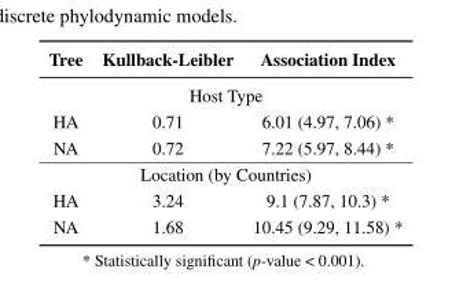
<table><thead><tr><td>Tree</td><td>Kullback-Leibler</td><td>Association Index</td></tr></thead><tbody><tr><td colspan="3">Host Type</td></tr><tr><td>HA</td><td>0.71</td><td>6.01 (4.97, 7.06) *</td></tr><tr><td>NA</td><td>0.72</td><td>7.22 (5.97, 8.44) *</td></tr><tr><td colspan="3">Location (by Countries)</td></tr><tr><td>HA</td><td>3.24</td><td>9.1 (7.87, 10.3) *</td></tr><tr><td>NA</td><td>1.68</td><td>10.45 (9.29, 11.58) *</td></tr></tbody></table>